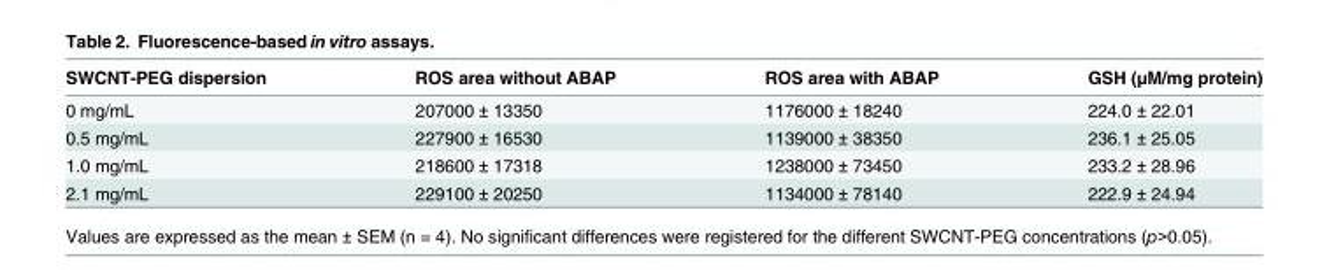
<table><thead><tr><td>SWCNT-PEG dispersion</td><td>ROS area without ABAP</td><td>ROS area with ABAP</td><td>GSH (μM/mg protein)</td></tr></thead><tbody><tr><td>0 mg/mL</td><td>207000 ± 13350</td><td>1176000 ± 18240</td><td>224.0 ± 22.01</td></tr><tr><td>0.5 mg/mL</td><td>227900 ± 16530</td><td>1139000 ± 38350</td><td>236.1 ± 25.05</td></tr><tr><td>1.0 mg/mL</td><td>218600 ± 17318</td><td>1238000 ± 73450</td><td>233.2 ± 28.96</td></tr><tr><td>2.1 mg/mL</td><td>229100 ± 20250</td><td>1134000 ± 78140</td><td>222.9 ± 24.94</td></tr></tbody></table>